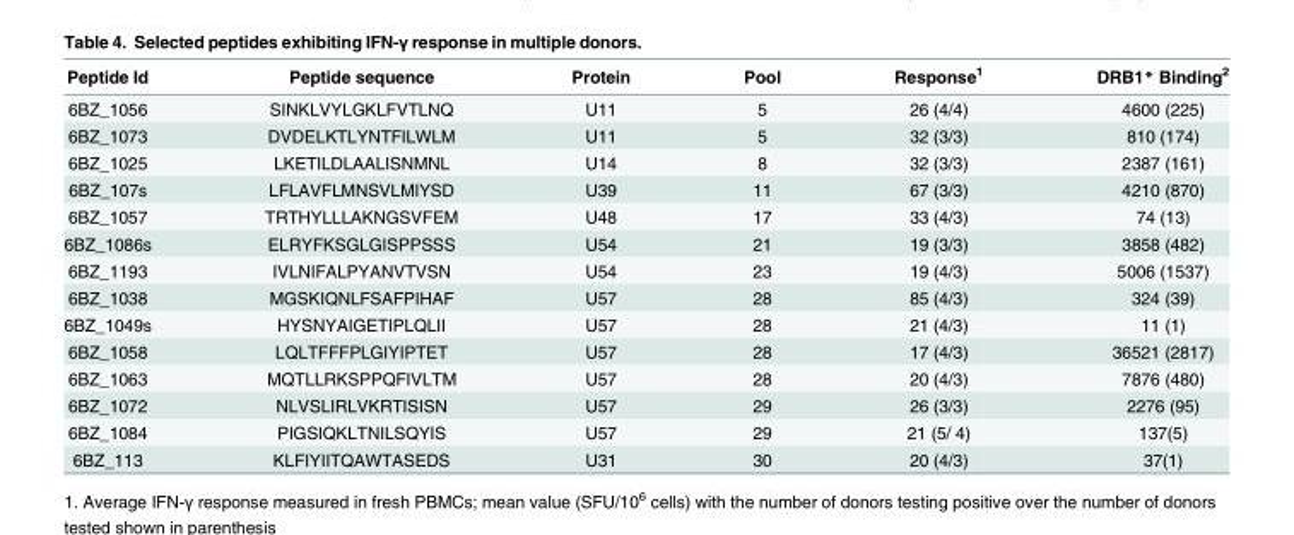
<table><thead><tr><td>Peptide Id</td><td>Peptide sequence</td><td>Protein</td><td>Pool</td><td>Response<sup>1</sup></td><td>DRB1* Binding<sup>2</sup></td></tr></thead><tbody><tr><td>6BZ_1056</td><td>SINKLVYLGKLFVTLNQ</td><td>U11</td><td>5</td><td>26 (4/4)</td><td>4600 (225)</td></tr><tr><td>6BZ_1073</td><td>DVDELKTLYNTFILWLM</td><td>U11</td><td>5</td><td>32 (3/3)</td><td>810 (174)</td></tr><tr><td>6BZ_1025</td><td>LKETILDLAALISNMNL</td><td>U14</td><td>8</td><td>32 (3/3)</td><td>2387 (161)</td></tr><tr><td>6BZ_107s</td><td>LFLAVFLMNSVLMIYSD</td><td>U39</td><td>11</td><td>67 (3/3)</td><td>4210 (870)</td></tr><tr><td>6BZ_1057</td><td>TRTHYLLLAKNGSVFEM</td><td>U48</td><td>17</td><td>33 (4/3)</td><td>74 (13)</td></tr><tr><td>6BZ_1086s</td><td>ELRYFKSGLGISPPSSS</td><td>U54</td><td>21</td><td>19 (3/3)</td><td>3858 (482)</td></tr><tr><td>6BZ_1193</td><td>IVLNIFALPYANVTVSN</td><td>U54</td><td>23</td><td>19 (4/3)</td><td>5006 (1537)</td></tr><tr><td>6BZ_1038</td><td>MGSKIQNLFSAFPIHAF</td><td>U57</td><td>28</td><td>85 (4/3)</td><td>324 (39)</td></tr><tr><td>6BZ_1049s</td><td>HYSNYAIGETIPLQLII</td><td>U57</td><td>28</td><td>21 (4/3)</td><td>11 (1)</td></tr><tr><td>6BZ_1058</td><td>LQLTFFFPLGIYIPTET</td><td>U57</td><td>28</td><td>17 (4/3)</td><td>36521 (2817)</td></tr><tr><td>6BZ_1063</td><td>MQTLLRKSPPQFIVLTM</td><td>U57</td><td>28</td><td>20 (4/3)</td><td>7876 (480)</td></tr><tr><td>6BZ_1072</td><td>NLVSLIRLVKRTISISN</td><td>U57</td><td>29</td><td>26 (3/3)</td><td>2276 (95)</td></tr><tr><td>6BZ_1084</td><td>PIGSIQKLTNILSQYIS</td><td>U57</td><td>29</td><td>21 (5/ 4)</td><td>137(5)</td></tr><tr><td>6BZ_113</td><td>KLFIYIITQAWTASEDS</td><td>U31</td><td>30</td><td>20 (4/3)</td><td>37(1)</td></tr></tbody></table>